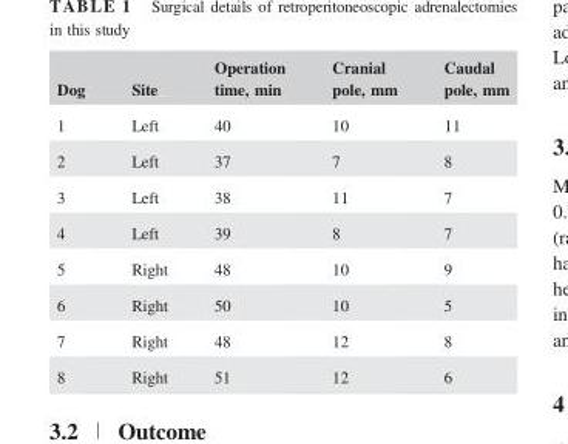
<table><thead><tr><td>Dog</td><td>Site</td><td>Operation time, min</td><td>Cranial pole, mm</td><td>Caudal pole, mm</td></tr></thead><tbody><tr><td>1</td><td>Left</td><td>40</td><td>10</td><td>11</td></tr><tr><td>2</td><td>Left</td><td>37</td><td>7</td><td>8</td></tr><tr><td>3</td><td>Left</td><td>38</td><td>11</td><td>7</td></tr><tr><td>4</td><td>Left</td><td>39</td><td>8</td><td>7</td></tr><tr><td>5</td><td>Right</td><td>48</td><td>10</td><td>9</td></tr><tr><td>6</td><td>Right</td><td>50</td><td>10</td><td>5</td></tr><tr><td>7</td><td>Right</td><td>48</td><td>12</td><td>8</td></tr><tr><td>8</td><td>Right</td><td>51</td><td>12</td><td>6</td></tr></tbody></table>